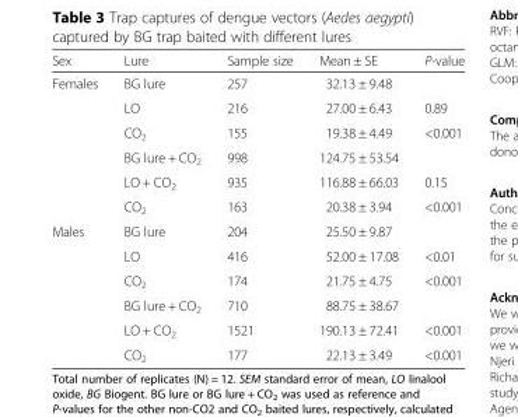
<table><thead><tr><td>Sex</td><td>Lure</td><td>Sample size</td><td>Mean ± SE</td><td>P-value</td></tr></thead><tbody><tr><td rowspan="6">Females</td><td>BG lure</td><td>257</td><td>32.13 ± 9.48</td><td></td></tr><tr><td>LO</td><td>216</td><td>27.00 ± 6.43</td><td>0.89</td></tr><tr><td>CO<sub>2</sub></td><td>155</td><td>19.38 ± 4.49</td><td>&lt;0.001</td></tr><tr><td>BG lure + CO<sub>2</sub></td><td>998</td><td>124.75 ± 53.54</td><td></td></tr><tr><td>LO + CO<sub>2</sub></td><td>935</td><td>116.88 ± 66.03</td><td>0.15</td></tr><tr><td>CO<sub>2</sub></td><td>163</td><td>20.38 ± 3.94</td><td>&lt;0.001</td></tr><tr><td rowspan="6">Males</td><td>BG lure</td><td>204</td><td>25.50 ± 9.87</td><td></td></tr><tr><td>LO</td><td>416</td><td>52.00 ± 17.08</td><td>&lt;0.01</td></tr><tr><td>CO<sub>2</sub></td><td>174</td><td>21.75 ± 4.75</td><td>&lt;0.001</td></tr><tr><td>BG lure + CO<sub>2</sub></td><td>710</td><td>88.75 ± 38.67</td><td></td></tr><tr><td>LO + CO<sub>2</sub></td><td>1521</td><td>190.13 ± 72.41</td><td>&lt;0.001</td></tr><tr><td>CO<sub>2</sub></td><td>177</td><td>22.13 ± 3.49</td><td>&lt;0.001</td></tr></tbody></table>